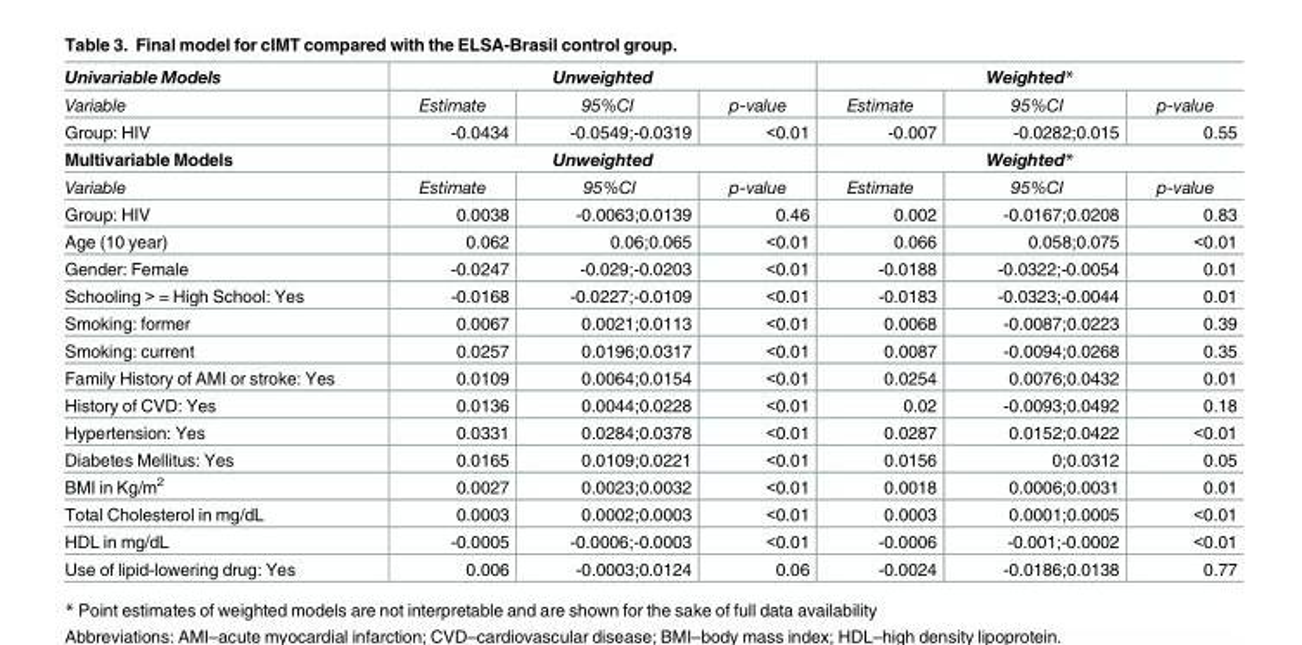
<table><thead><tr><td rowspan="2">Univariable Models Variable</td><td colspan="3">Unweighted</td><td colspan="3">Weighted*</td></tr><tr><td>Estimate</td><td>95%CI</td><td>p-value</td><td>Estimate</td><td>95%CI</td><td>p-value</td></tr></thead><tbody><tr><td>Group: HIV</td><td>-0.0434</td><td>-0.0549;-0.0319</td><td>&lt;0.01</td><td>-0.007</td><td>-0.0282;0.015</td><td>0.55</td></tr><tr><td>Multivariable Models</td><td colspan="3">Unweighted</td><td colspan="3">Weighted*</td></tr><tr><td>Variable</td><td>Estimate</td><td>95%CI</td><td>p-value</td><td>Estimate</td><td>95%CI</td><td>p-value</td></tr><tr><td>Group: HIV</td><td>0.0038</td><td>-0.0063;0.0139</td><td>0.46</td><td>0.002</td><td>-0.0167;0.0208</td><td>0.83</td></tr><tr><td>Age (10 year)</td><td>0.062</td><td>0.06;0.065</td><td>&lt;0.01</td><td>0.066</td><td>0.058;0.075</td><td>&lt;0.01</td></tr><tr><td>Gender: Female</td><td>-0.0247</td><td>-0.029;-0.0203</td><td>&lt;0.01</td><td>-0.0188</td><td>-0.0322;-0.0054</td><td>0.01</td></tr><tr><td>Schooling &gt; = High School: Yes</td><td>-0.0168</td><td>-0.0227;-0.0109</td><td>&lt;0.01</td><td>-0.0183</td><td>-0.0323;-0.0044</td><td>0.01</td></tr><tr><td>Smoking: former</td><td>0.0067</td><td>0.0021;0.0113</td><td>&lt;0.01</td><td>0.0068</td><td>-0.0087;0.0223</td><td>0.39</td></tr><tr><td>Smoking: current</td><td>0.0257</td><td>0.0196;0.0317</td><td>&lt;0.01</td><td>0.0087</td><td>-0.0094;0.0268</td><td>0.35</td></tr><tr><td>Family History of AMI or stroke: Yes</td><td>0.0109</td><td>0.0064;0.0154</td><td>&lt;0.01</td><td>0.0254</td><td>0.0076;0.0432</td><td>0.01</td></tr><tr><td>History of CVD: Yes</td><td>0.0136</td><td>0.0044;0.0228</td><td>&lt;0.01</td><td>0.02</td><td>-0.0093;0.0492</td><td>0.18</td></tr><tr><td>Hypertension: Yes</td><td>0.0331</td><td>0.0284;0.0378</td><td>&lt;0.01</td><td>0.0287</td><td>0.0152;0.0422</td><td>&lt;0.01</td></tr><tr><td>Diabetes Mellitus: Yes</td><td>0.0165</td><td>0.0109;0.0221</td><td>&lt;0.01</td><td>0.0156</td><td>0;0.0312</td><td>0.05</td></tr><tr><td>BMI in Kg/m<sup>2</sup></td><td>0.0027</td><td>0.0023;0.0032</td><td>&lt;0.01</td><td>0.0018</td><td>0.0006;0.0031</td><td>0.01</td></tr><tr><td>Total Cholesterol in mg/dL</td><td>0.0003</td><td>0.0002;0.0003</td><td>&lt;0.01</td><td>0.0003</td><td>0.0001;0.0005</td><td>&lt;0.01</td></tr><tr><td>HDL in mg/dL</td><td>-0.0005</td><td>-0.0006;-0.0003</td><td>&lt;0.01</td><td>-0.0006</td><td>-0.001;-0.0002</td><td>&lt;0.01</td></tr><tr><td>Use of lipid-lowering drug: Yes</td><td>0.006</td><td>-0.0003;0.0124</td><td>0.06</td><td>-0.0024</td><td>-0.0186;0.0138</td><td>0.77</td></tr></tbody></table>